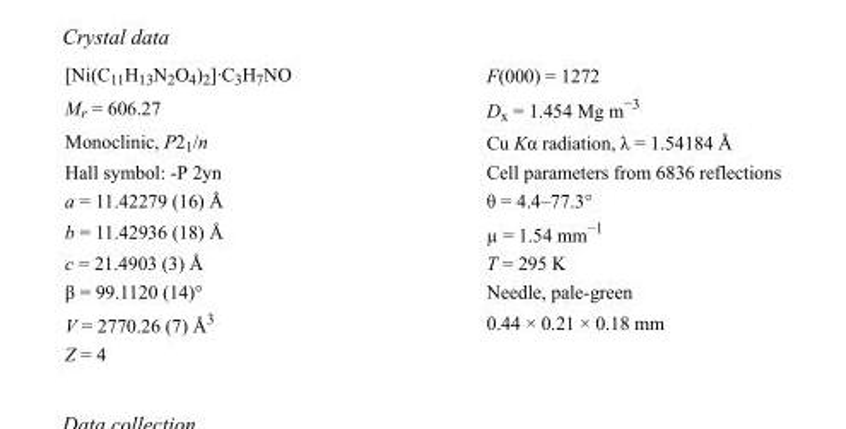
<table><tbody><tr><td>[Ni(C<sub>11</sub>H<sub>13</sub>N<sub>2</sub>O<sub>4</sub>)<sub>2</sub>]·C<sub>3</sub>H<sub>7</sub>NO</td><td>F(000) = 1272</td></tr><tr><td>M<sub>r</sub> = 606.27</td><td>D<sub>x</sub> = 1.454 Mg m<sup>−3</sup></td></tr><tr><td>Monoclinic, P2<sub>1</sub>/n</td><td>Cu Kα radiation, λ = 1.54184 Å</td></tr><tr><td>Hall symbol: -P 2yn</td><td>Cell parameters from 6836 reflections</td></tr><tr><td>a = 11.42279 (16) Å</td><td>θ = 4.4–77.3°</td></tr><tr><td>b = 11.42936 (18) Å</td><td>µ = 1.54 mm<sup>−1</sup></td></tr><tr><td>c = 21.4903 (3) Å</td><td>T = 295 K</td></tr><tr><td>β = 99.1120 (14)°</td><td>Needle, pale-green</td></tr><tr><td>V = 2770.26 (7) Å<sup>3</sup></td><td>0.44 × 0.21 × 0.18 mm</td></tr><tr><td>Z = 4</td><td></td></tr></tbody></table>